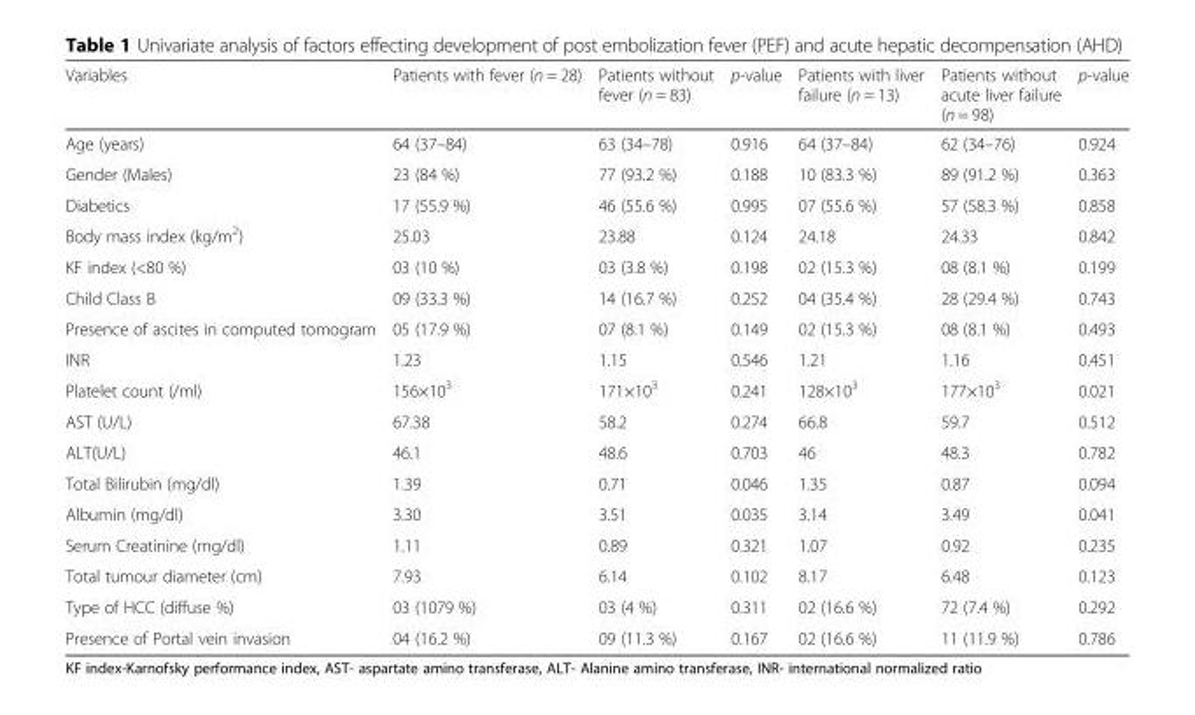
<table><thead><tr><td>Variables</td><td>Patients with fever (n = 28)</td><td>Patients without fever (n = 83)</td><td>p-value</td><td>Patients with liver failure (n = 13)</td><td>Patients without acute liver failure (n = 98)</td><td>p-value</td></tr></thead><tbody><tr><td>Age (years)</td><td>64 (37–84)</td><td>63 (34–78)</td><td>0.916</td><td>64 (37–84)</td><td>62 (34–76)</td><td>0.924</td></tr><tr><td>Gender (Males)</td><td>23 (84 %)</td><td>77 (93.2 %)</td><td>0.188</td><td>10 (83.3 %)</td><td>89 (91.2 %)</td><td>0.363</td></tr><tr><td>Diabetics</td><td>17 (55.9 %)</td><td>46 (55.6 %)</td><td>0.995</td><td>07 (55.6 %)</td><td>57 (58.3 %)</td><td>0.858</td></tr><tr><td>Body mass index (kg/m<sup>2</sup>)</td><td>25.03</td><td>23.88</td><td>0.124</td><td>24.18</td><td>24.33</td><td>0.842</td></tr><tr><td>KF index (&lt;80 %)</td><td>03 (10 %)</td><td>03 (3.8 %)</td><td>0.198</td><td>02 (15.3 %)</td><td>08 (8.1 %)</td><td>0.199</td></tr><tr><td>Child Class B</td><td>09 (33.3 %)</td><td>14 (16.7 %)</td><td>0.252</td><td>04 (35.4 %)</td><td>28 (29.4 %)</td><td>0.743</td></tr><tr><td>Presence of ascites in computed tomogram</td><td>05 (17.9 %)</td><td>07 (8.1 %)</td><td>0.149</td><td>02 (15.3 %)</td><td>08 (8.1 %)</td><td>0.493</td></tr><tr><td>INR</td><td>1.23</td><td>1.15</td><td>0.546</td><td>1.21</td><td>1.16</td><td>0.451</td></tr><tr><td>Platelet count (/ml)</td><td>156×10<sup>3</sup></td><td>171×10<sup>3</sup></td><td>0.241</td><td>128×10<sup>3</sup></td><td>177×10<sup>3</sup></td><td>0.021</td></tr><tr><td>AST (U/L)</td><td>67.38</td><td>58.2</td><td>0.274</td><td>66.8</td><td>59.7</td><td>0.512</td></tr><tr><td>ALT(U/L)</td><td>46.1</td><td>48.6</td><td>0.703</td><td>46</td><td>48.3</td><td>0.782</td></tr><tr><td>Total Bilirubin (mg/dl)</td><td>1.39</td><td>0.71</td><td>0.046</td><td>1.35</td><td>0.87</td><td>0.094</td></tr><tr><td>Albumin (mg/dl)</td><td>3.30</td><td>3.51</td><td>0.035</td><td>3.14</td><td>3.49</td><td>0.041</td></tr><tr><td>Serum Creatinine (mg/dl)</td><td>1.11</td><td>0.89</td><td>0.321</td><td>1.07</td><td>0.92</td><td>0.235</td></tr><tr><td>Total tumour diameter (cm)</td><td>7.93</td><td>6.14</td><td>0.102</td><td>8.17</td><td>6.48</td><td>0.123</td></tr><tr><td>Type of HCC (diffuse %)</td><td>03 (1079 %)</td><td>03 (4 %)</td><td>0.311</td><td>02 (16.6 %)</td><td>72 (7.4 %)</td><td>0.292</td></tr><tr><td>Presence of Portal vein invasion</td><td>04 (16.2 %)</td><td>09 (11.3 %)</td><td>0.167</td><td>02 (16.6 %)</td><td>11 (11.9 %)</td><td>0.786</td></tr></tbody></table>